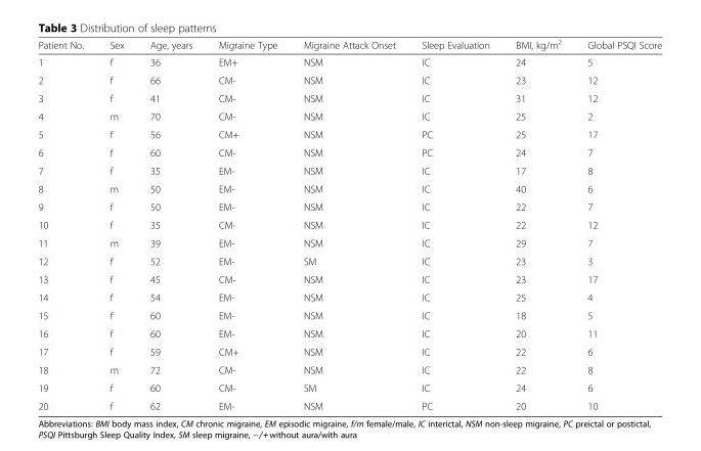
<table><thead><tr><td>Patient No.</td><td>Sex</td><td>Age, years</td><td>Migraine Type</td><td>Migraine Attack Onset</td><td>Sleep Evaluation</td><td>BMI, kg/m<sup>2</sup></td><td>Global PSQI Score</td></tr></thead><tbody><tr><td>1</td><td>f</td><td>36</td><td>EM+</td><td>NSM</td><td>IC</td><td>24</td><td>5</td></tr><tr><td>2</td><td>f</td><td>66</td><td>CM-</td><td>NSM</td><td>IC</td><td>23</td><td>12</td></tr><tr><td>3</td><td>f</td><td>41</td><td>CM-</td><td>NSM</td><td>IC</td><td>31</td><td>12</td></tr><tr><td>4</td><td>m</td><td>70</td><td>CM-</td><td>NSM</td><td>IC</td><td>25</td><td>2</td></tr><tr><td>5</td><td>f</td><td>56</td><td>CM+</td><td>NSM</td><td>PC</td><td>25</td><td>17</td></tr><tr><td>6</td><td>f</td><td>60</td><td>CM-</td><td>NSM</td><td>PC</td><td>24</td><td>7</td></tr><tr><td>7</td><td>f</td><td>35</td><td>EM-</td><td>NSM</td><td>IC</td><td>17</td><td>8</td></tr><tr><td>8</td><td>m</td><td>50</td><td>EM-</td><td>NSM</td><td>IC</td><td>40</td><td>6</td></tr><tr><td>9</td><td>f</td><td>50</td><td>EM-</td><td>NSM</td><td>IC</td><td>22</td><td>7</td></tr><tr><td>10</td><td>f</td><td>35</td><td>CM-</td><td>NSM</td><td>IC</td><td>22</td><td>12</td></tr><tr><td>11</td><td>m</td><td>39</td><td>EM-</td><td>NSM</td><td>IC</td><td>29</td><td>7</td></tr><tr><td>12</td><td>f</td><td>52</td><td>EM-</td><td>SM</td><td>IC</td><td>23</td><td>3</td></tr><tr><td>13</td><td>f</td><td>45</td><td>CM-</td><td>NSM</td><td>IC</td><td>23</td><td>17</td></tr><tr><td>14</td><td>f</td><td>54</td><td>EM-</td><td>NSM</td><td>IC</td><td>25</td><td>4</td></tr><tr><td>15</td><td>f</td><td>60</td><td>EM-</td><td>NSM</td><td>IC</td><td>18</td><td>5</td></tr><tr><td>16</td><td>f</td><td>60</td><td>EM-</td><td>NSM</td><td>IC</td><td>20</td><td>11</td></tr><tr><td>17</td><td>f</td><td>59</td><td>CM+</td><td>NSM</td><td>IC</td><td>22</td><td>6</td></tr><tr><td>18</td><td>m</td><td>72</td><td>CM-</td><td>NSM</td><td>IC</td><td>22</td><td>8</td></tr><tr><td>19</td><td>f</td><td>60</td><td>CM-</td><td>SM</td><td>IC</td><td>24</td><td>6</td></tr><tr><td>20</td><td>f</td><td>62</td><td>EM-</td><td>NSM</td><td>PC</td><td>20</td><td>10</td></tr></tbody></table>